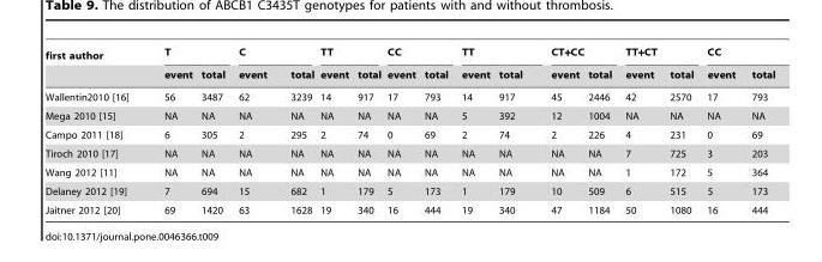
<table><thead><tr><td rowspan="2">first author</td><td colspan="2">T</td><td colspan="2">C</td><td colspan="2">TT</td><td colspan="2">CC</td><td colspan="2">TT</td><td colspan="2">CT+CC</td><td colspan="2">TT+CT</td><td colspan="2">CC</td></tr><tr><td>event</td><td>total</td><td>event</td><td>total</td><td>event</td><td>total</td><td>event</td><td>total</td><td>event</td><td>total</td><td>event</td><td>total</td><td>event</td><td>total</td><td>event</td><td>total</td></tr></thead><tbody><tr><td>Wallentin2010 [16]</td><td>56</td><td>3487</td><td>62</td><td>3239</td><td>14</td><td>917</td><td>17</td><td>793</td><td>14</td><td>917</td><td>45</td><td>2446</td><td>42</td><td>2570</td><td>17</td><td>793</td></tr><tr><td>Mega 2010 [15]</td><td>NA</td><td>NA</td><td>NA</td><td>NA</td><td>NA</td><td>NA</td><td>NA</td><td>NA</td><td>5</td><td>392</td><td>12</td><td>1004</td><td>NA</td><td>NA</td><td>NA</td><td>NA</td></tr><tr><td>Campo 2011 [18]</td><td>6</td><td>305</td><td>2</td><td>295</td><td>2</td><td>74</td><td>0</td><td>69</td><td>2</td><td>74</td><td>2</td><td>226</td><td>4</td><td>231</td><td>0</td><td>69</td></tr><tr><td>Tiroch 2010 [17]</td><td>NA</td><td>NA</td><td>NA</td><td>NA</td><td>NA</td><td>NA</td><td>NA</td><td>NA</td><td>NA</td><td>NA</td><td>NA</td><td>NA</td><td>7</td><td>725</td><td>3</td><td>203</td></tr><tr><td>Wang 2012 [11]</td><td>NA</td><td>NA</td><td>NA</td><td>NA</td><td>NA</td><td>NA</td><td>NA</td><td>NA</td><td>NA</td><td>NA</td><td>NA</td><td>NA</td><td>1</td><td>172</td><td>5</td><td>364</td></tr><tr><td>Delaney 2012 [19]</td><td>7</td><td>694</td><td>15</td><td>682</td><td>1</td><td>179</td><td>5</td><td>173</td><td>1</td><td>179</td><td>10</td><td>509</td><td>6</td><td>515</td><td>5</td><td>173</td></tr><tr><td>Jaitner 2012 [20]</td><td>69</td><td>1420</td><td>63</td><td>1628</td><td>19</td><td>340</td><td>16</td><td>444</td><td>19</td><td>340</td><td>47</td><td>1184</td><td>50</td><td>1080</td><td>16</td><td>444</td></tr></tbody></table>